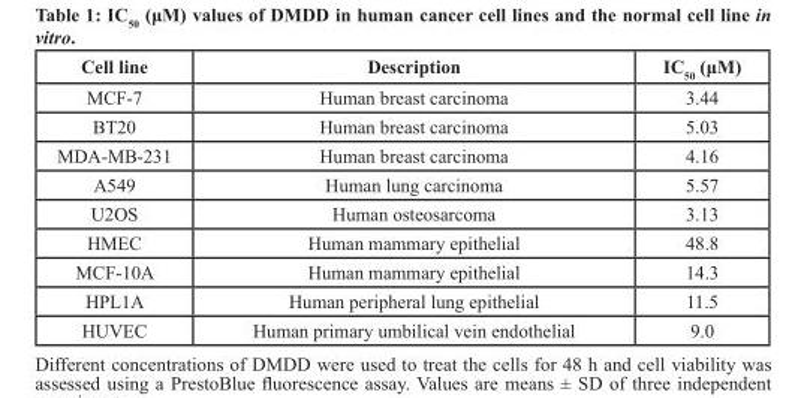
<table><thead><tr><td>Cell line</td><td>Description</td><td>IC<sub>50</sub> (μM)</td></tr></thead><tbody><tr><td>MCF-7</td><td>Human breast carcinoma</td><td>3.44</td></tr><tr><td>BT20</td><td>Human breast carcinoma</td><td>5.03</td></tr><tr><td>MDA-MB-231</td><td>Human breast carcinoma</td><td>4.16</td></tr><tr><td>A549</td><td>Human lung carcinoma</td><td>5.57</td></tr><tr><td>U2OS</td><td>Human osteosarcoma</td><td>3.13</td></tr><tr><td>HMEC</td><td>Human mammary epithelial</td><td>48.8</td></tr><tr><td>MCF-10A</td><td>Human mammary epithelial</td><td>14.3</td></tr><tr><td>HPL1A</td><td>Human peripheral lung epithelial</td><td>11.5</td></tr><tr><td>HUVEC</td><td>Human primary umbilical vein endothelial</td><td>9.0</td></tr></tbody></table>